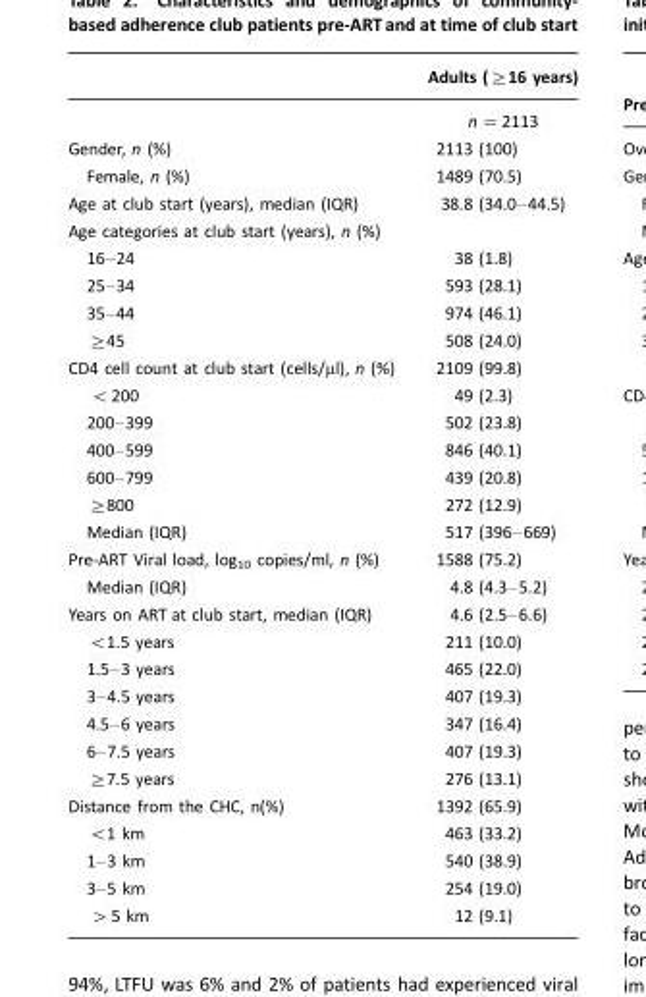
<table><thead><tr><td></td><td>Adults (≥16 years)</td></tr></thead><tbody><tr><td></td><td>n =2113</td></tr><tr><td>Gender, n (%)</td><td>2113 (100)</td></tr><tr><td>Female, n (%)</td><td>1489 (70.5)</td></tr><tr><td>Age at club start (years), median (IQR)</td><td>38.8 (34.0–44.5)</td></tr><tr><td colspan="2">Age categories at club start (years), n (%)</td></tr><tr><td>16–24</td><td>38 (1.8)</td></tr><tr><td>25–34</td><td>593 (28.1)</td></tr><tr><td>35–44</td><td>974 (46.1)</td></tr><tr><td>≥45</td><td>508 (24.0)</td></tr><tr><td>CD4 cell count at club start (cells/µl), n (%)</td><td>2109 (99.8)</td></tr><tr><td>&lt;200</td><td>49 (2.3)</td></tr><tr><td>200–399</td><td>502 (23.8)</td></tr><tr><td>400–599</td><td>846 (40.1)</td></tr><tr><td>600–799</td><td>439 (20.8)</td></tr><tr><td>≥800</td><td>272 (12.9)</td></tr><tr><td>Median (IQR)</td><td>517 (396–669)</td></tr><tr><td>Pre-ART Viral load, log<sub>10</sub> copies/ml, n (%)</td><td>1588 (75.2)</td></tr><tr><td>Median (IQR)</td><td>4.8 (4.3–5.2)</td></tr><tr><td>Years on ART at club start, median (IQR)</td><td>4.6 (2.5–6.6)</td></tr><tr><td>&lt;1.5 years</td><td>211 (10.0)</td></tr><tr><td>1.5–3 years</td><td>465 (22.0)</td></tr><tr><td>3–4.5 years</td><td>407 (19.3)</td></tr><tr><td>4.5–6 years</td><td>347 (16.4)</td></tr><tr><td>6–7.5 years</td><td>407 (19.3)</td></tr><tr><td>≥7.5 years</td><td>276 (13.1)</td></tr><tr><td>Distance from the CHC, n(%)</td><td>1392 (65.9)</td></tr><tr><td>&lt;1 km</td><td>463 (33.2)</td></tr><tr><td>1–3 km</td><td>540 (38.9)</td></tr><tr><td>3–5 km</td><td>254 (19.0)</td></tr><tr><td>&gt;5 km</td><td>12 (9.1)</td></tr></tbody></table>